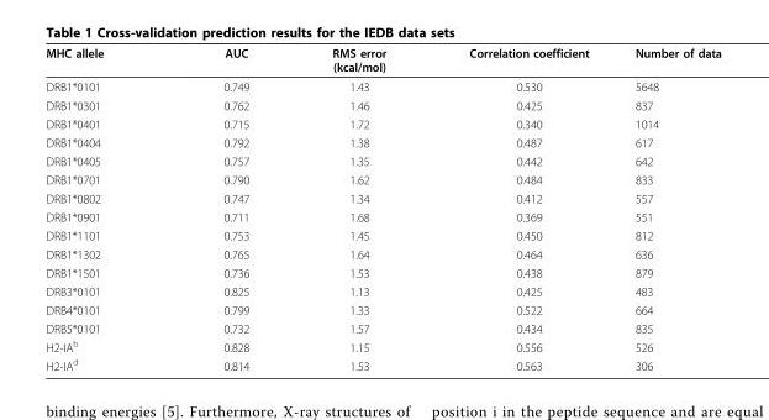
<table><thead><tr><td>MHC allele</td><td>AUC</td><td>RMS error (kcal/mol)</td><td>Correlation coefficient</td><td>Number of data</td></tr></thead><tbody><tr><td>DRB1*0101</td><td>0.749</td><td>1.43</td><td>0.530</td><td>5648</td></tr><tr><td>DRB1*0301</td><td>0.762</td><td>1.46</td><td>0.425</td><td>837</td></tr><tr><td>DRB1*0401</td><td>0.715</td><td>1.72</td><td>0.340</td><td>1014</td></tr><tr><td>DRB1*0404</td><td>0.792</td><td>1.38</td><td>0.487</td><td>617</td></tr><tr><td>DRB1*0405</td><td>0.757</td><td>1.35</td><td>0.442</td><td>642</td></tr><tr><td>DRB1*0701</td><td>0.790</td><td>1.62</td><td>0.484</td><td>833</td></tr><tr><td>DRB1*0802</td><td>0.747</td><td>1.34</td><td>0.412</td><td>557</td></tr><tr><td>DRB1*0901</td><td>0.711</td><td>1.68</td><td>0.369</td><td>551</td></tr><tr><td>DRB1*1101</td><td>0.753</td><td>1.45</td><td>0.450</td><td>812</td></tr><tr><td>DRB1*1302</td><td>0.765</td><td>1.64</td><td>0.464</td><td>636</td></tr><tr><td>DRB1*1501</td><td>0.736</td><td>1.53</td><td>0.438</td><td>879</td></tr><tr><td>DRB3*0101</td><td>0.825</td><td>1.13</td><td>0.425</td><td>483</td></tr><tr><td>DRB4*0101</td><td>0.799</td><td>1.33</td><td>0.522</td><td>664</td></tr><tr><td>DRB5*0101</td><td>0.732</td><td>1.57</td><td>0.434</td><td>835</td></tr><tr><td>H2-IA<sup>b</sup></td><td>0.828</td><td>1.15</td><td>0.556</td><td>526</td></tr><tr><td>H2-IA<sup>d</sup></td><td>0.814</td><td>1.53</td><td>0.563</td><td>306</td></tr></tbody></table>